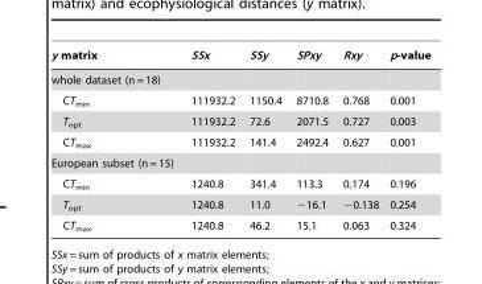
<table><thead><tr><td>y matrix</td><td>SSx</td><td>SSy</td><td>SPxy</td><td>Rxy</td><td>p-value</td></tr></thead><tbody><tr><td colspan="6">whole dataset (n = 18)</td></tr><tr><td>CT<sub>min</sub></td><td>111932.2</td><td>1150.4</td><td>8710.8</td><td>0.768</td><td>0.001</td></tr><tr><td>T<sub>opt</sub></td><td>111932.2</td><td>72.6</td><td>2071.5</td><td>0.727</td><td>0.003</td></tr><tr><td>CT<sub>max</sub></td><td>111932.2</td><td>141.4</td><td>2492.4</td><td>0.627</td><td>0.001</td></tr><tr><td colspan="6">European subset (n = 15)</td></tr><tr><td>CT<sub>min</sub></td><td>1240.8</td><td>341.4</td><td>113.3</td><td>0.174</td><td>0.196</td></tr><tr><td>T<sub>opt</sub></td><td>1240.8</td><td>11.0</td><td>−16.1</td><td>−0.138</td><td>0.254</td></tr><tr><td>CT<sub>max</sub></td><td>1240.8</td><td>46.2</td><td>15.1</td><td>0.063</td><td>0.324</td></tr></tbody></table>